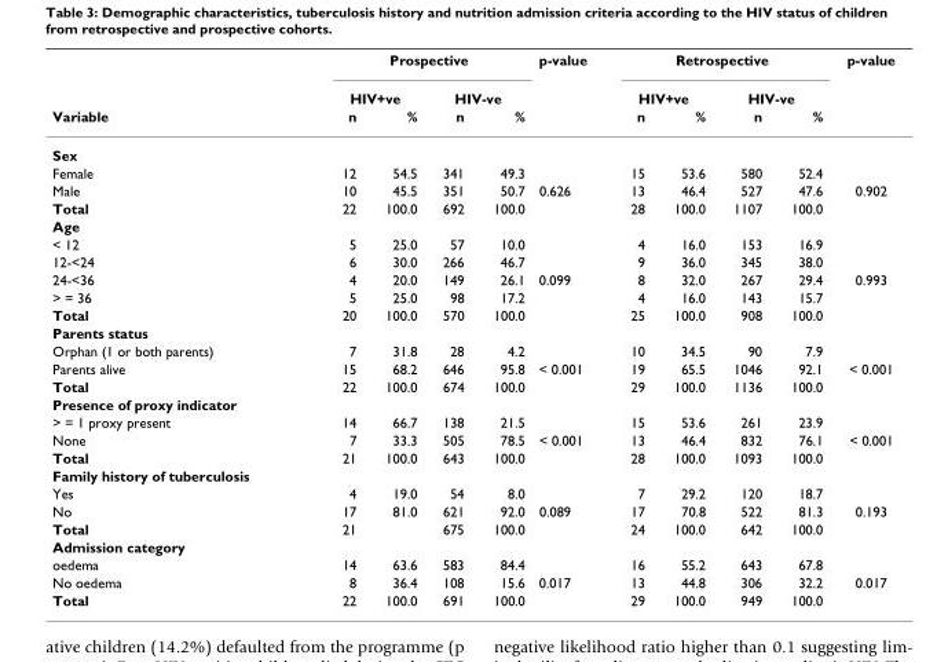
<table><thead><tr><td rowspan="3">Variable</td><td colspan="4">Prospective</td><td rowspan="3">p-value</td><td colspan="4">Retrospective</td><td rowspan="3">p-value</td></tr><tr><td colspan="2">HIV+ve</td><td colspan="2">HIV-ve</td><td colspan="2">HIV+ve</td><td colspan="2">HIV-ve</td></tr><tr><td>n</td><td>%</td><td>n</td><td>%</td><td>n</td><td>%</td><td>n</td><td>%</td></tr></thead><tbody><tr><td colspan="11">Sex</td></tr><tr><td>Female</td><td>12</td><td>54.5</td><td>341</td><td>49.3</td><td></td><td>15</td><td>53.6</td><td>580</td><td>52.4</td><td></td></tr><tr><td>Male</td><td>10</td><td>45.5</td><td>351</td><td>50.7</td><td>0.626</td><td>13</td><td>46.4</td><td>527</td><td>47.6</td><td>0.902</td></tr><tr><td>Total</td><td>22</td><td>100.0</td><td>692</td><td>100.0</td><td></td><td>28</td><td>100.0</td><td>1107</td><td>100.0</td><td></td></tr><tr><td colspan="11">Age</td></tr><tr><td>&lt; 12</td><td>5</td><td>25.0</td><td>57</td><td>10.0</td><td></td><td>4</td><td>16.0</td><td>153</td><td>16.9</td><td></td></tr><tr><td>12-&lt;24</td><td>6</td><td>30.0</td><td>266</td><td>46.7</td><td></td><td>9</td><td>36.0</td><td>345</td><td>38.0</td><td></td></tr><tr><td>24-&lt;36</td><td>4</td><td>20.0</td><td>149</td><td>26.1</td><td>0.099</td><td>8</td><td>32.0</td><td>267</td><td>29.4</td><td>0.993</td></tr><tr><td>&gt; = 36</td><td>5</td><td>25.0</td><td>98</td><td>17.2</td><td></td><td>4</td><td>16.0</td><td>143</td><td>15.7</td><td></td></tr><tr><td>Total</td><td>20</td><td>100.0</td><td>570</td><td>100.0</td><td></td><td>25</td><td>100.0</td><td>908</td><td>100.0</td><td></td></tr><tr><td colspan="11">Parents status</td></tr><tr><td>Orphan (1 or both parents)</td><td>7</td><td>31.8</td><td>28</td><td>4.2</td><td></td><td>10</td><td>34.5</td><td>90</td><td>7.9</td><td></td></tr><tr><td>Parents alive</td><td>15</td><td>68.2</td><td>646</td><td>95.8</td><td>&lt; 0.001</td><td>19</td><td>65.5</td><td>1046</td><td>92.1</td><td>&lt; 0.001</td></tr><tr><td>Total</td><td>22</td><td>100.0</td><td>674</td><td>100.0</td><td></td><td>29</td><td>100.0</td><td>1136</td><td>100.0</td><td></td></tr><tr><td colspan="11">Presence of proxy indicator</td></tr><tr><td>&gt; = 1 proxy present</td><td>14</td><td>66.7</td><td>138</td><td>21.5</td><td></td><td>15</td><td>53.6</td><td>261</td><td>23.9</td><td></td></tr><tr><td>None</td><td>7</td><td>33.3</td><td>505</td><td>78.5</td><td>&lt; 0.001</td><td>13</td><td>46.4</td><td>832</td><td>76.1</td><td>&lt; 0.001</td></tr><tr><td>Total</td><td>21</td><td>100.0</td><td>643</td><td>100.0</td><td></td><td>28</td><td>100.0</td><td>1093</td><td>100.0</td><td></td></tr><tr><td colspan="11">Family history of tuberculosis</td></tr><tr><td>Yes</td><td>4</td><td>19.0</td><td>54</td><td>8.0</td><td></td><td>7</td><td>29.2</td><td>120</td><td>18.7</td><td></td></tr><tr><td>No</td><td>17</td><td>81.0</td><td>621</td><td>92.0</td><td>0.089</td><td>17</td><td>70.8</td><td>522</td><td>81.3</td><td>0.193</td></tr><tr><td>Total</td><td>21</td><td></td><td>675</td><td>100.0</td><td></td><td>24</td><td>100.0</td><td>642</td><td>100.0</td><td></td></tr><tr><td colspan="11">Admission category</td></tr><tr><td>oedema</td><td>14</td><td>63.6</td><td>583</td><td>84.4</td><td></td><td>16</td><td>55.2</td><td>643</td><td>67.8</td><td></td></tr><tr><td>No oedema</td><td>8</td><td>36.4</td><td>108</td><td>15.6</td><td>0.017</td><td>13</td><td>44.8</td><td>306</td><td>32.2</td><td>0.017</td></tr><tr><td>Total</td><td>22</td><td>100.0</td><td>691</td><td>100.0</td><td></td><td>29</td><td>100.0</td><td>949</td><td>100.0</td><td></td></tr></tbody></table>